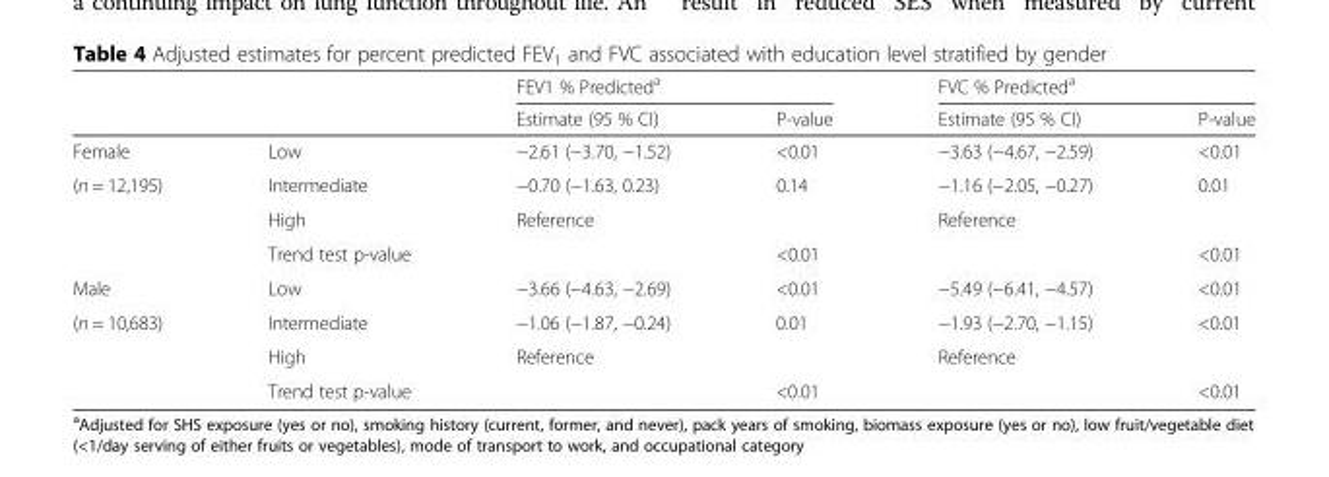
<table><thead><tr><td rowspan="2"></td><td rowspan="2"></td><td colspan="2">FEV1 % Predicted<sup>a</sup></td><td colspan="2">FVC % Predicted<sup>a</sup></td></tr><tr><td>Estimate (95 % CI)</td><td>P-value</td><td>Estimate (95 % CI)</td><td>P-value</td></tr></thead><tbody><tr><td>Female</td><td>Low</td><td>−2.61 (−3.70, −1.52)</td><td>&lt;0.01</td><td>−3.63 (−4.67, −2.59)</td><td>&lt;0.01</td></tr><tr><td rowspan="3">(n = 12,195)</td><td>Intermediate</td><td>−0.70 (−1.63, 0.23)</td><td>0.14</td><td>−1.16 (−2.05, −0.27)</td><td>0.01</td></tr><tr><td>High</td><td>Reference</td><td></td><td>Reference</td><td></td></tr><tr><td>Trend test p-value</td><td></td><td>&lt;0.01</td><td></td><td>&lt;0.01</td></tr><tr><td>Male</td><td>Low</td><td>−3.66 (−4.63, −2.69)</td><td>&lt;0.01</td><td>−5.49 (−6.41, −4.57)</td><td>&lt;0.01</td></tr><tr><td rowspan="3">(n = 10,683)</td><td>Intermediate</td><td>−1.06 (−1.87, −0.24)</td><td>0.01</td><td>−1.93 (−2.70, −1.15)</td><td>&lt;0.01</td></tr><tr><td>High</td><td>Reference</td><td></td><td>Reference</td><td></td></tr><tr><td>Trend test p-value</td><td></td><td>&lt;0.01</td><td></td><td>&lt;0.01</td></tr></tbody></table>